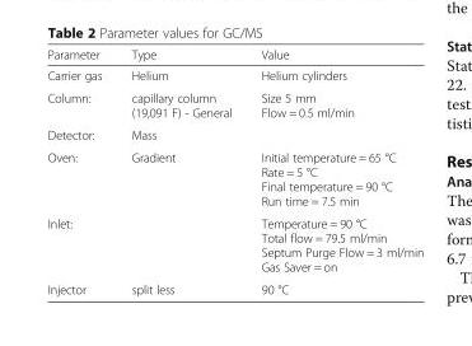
<table><thead><tr><td>Parameter</td><td>Type</td><td>Value</td></tr></thead><tbody><tr><td>Carrier gas</td><td>Helium</td><td>Helium cylinders</td></tr><tr><td>Column:</td><td>capillary column (19,091 F) - General</td><td>Size 5 mm Flow = 0.5 ml/min</td></tr><tr><td>Detector:</td><td>Mass</td><td></td></tr><tr><td>Oven:</td><td>Gradient</td><td>Initial temperature = 65 °C Rate = 5 °C Final temperature = 90 °C Run time = 7.5 min</td></tr><tr><td>Inlet:</td><td></td><td>Temperature = 90 °C Total flow = 79.5 ml/min Septum Purge Flow = 3 ml/min Gas Saver = on</td></tr><tr><td>Injector</td><td>split less</td><td>90 °C</td></tr></tbody></table>